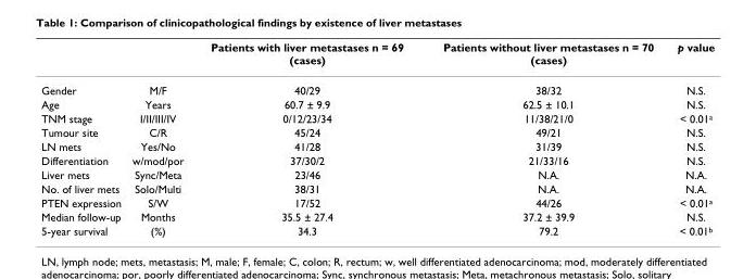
<table><thead><tr><td></td><td></td><td>Patients with liver metastases n = 69 (cases)</td><td>Patients without liver metastases n = 70 (cases)</td><td>p value</td></tr></thead><tbody><tr><td>Gender</td><td>M/F</td><td>40/29</td><td>38/32</td><td>N.S.</td></tr><tr><td>Age</td><td>Years</td><td>60.7 ± 9.9</td><td>62.5 ± 10.1</td><td>N.S.</td></tr><tr><td>TNM stage</td><td>I/II/III/IV</td><td>0/12/23/34</td><td>11/38/21/0</td><td>&lt; 0.01<sup>a</sup></td></tr><tr><td>Tumour site</td><td>C/R</td><td>45/24</td><td>49/21</td><td>N.S.</td></tr><tr><td>LN mets</td><td>Yes/No</td><td>41/28</td><td>31/39</td><td>N.S.</td></tr><tr><td>Differentiation</td><td>w/mod/por</td><td>37/30/2</td><td>21/33/16</td><td>N.S.</td></tr><tr><td>Liver mets</td><td>Sync/Meta</td><td>23/46</td><td>N.A.</td><td>N.A.</td></tr><tr><td>No. of liver mets</td><td>Solo/Multi</td><td>38/31</td><td>N.A.</td><td>N.A.</td></tr><tr><td>PTEN expression</td><td>S/W</td><td>17/52</td><td>44/26</td><td>&lt; 0.01<sup>a</sup></td></tr><tr><td>Median follow-up</td><td>Months</td><td>35.5 ± 27.4</td><td>37.2 ± 39.9</td><td>N.S.</td></tr><tr><td>5-year survival</td><td>(%)</td><td>34.3</td><td>79.2</td><td>&lt; 0.01<sup>b</sup></td></tr></tbody></table>